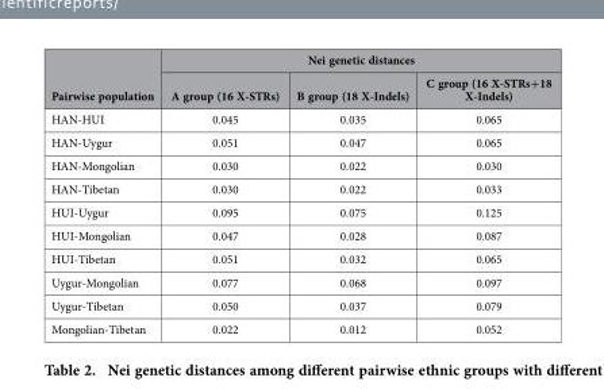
<table><thead><tr><td rowspan="2">Pairwise population</td><td colspan="3">Nei genetic distances</td></tr><tr><td>A group (16 X-STRs)</td><td>B group (18 X-Indels)</td><td>C group (16 X-STRs+18 X-Indels)</td></tr></thead><tbody><tr><td>HAN-HUI</td><td>0.045</td><td>0.035</td><td>0.065</td></tr><tr><td>HAN-Uygur</td><td>0.051</td><td>0.047</td><td>0.065</td></tr><tr><td>HAN-Mongolian</td><td>0.030</td><td>0.022</td><td>0.030</td></tr><tr><td>HAN-Tibetan</td><td>0.030</td><td>0.022</td><td>0.033</td></tr><tr><td>HUI-Uygur</td><td>0.095</td><td>0.075</td><td>0.125</td></tr><tr><td>HUI-Mongolian</td><td>0.047</td><td>0.028</td><td>0.087</td></tr><tr><td>HUI-Tibetan</td><td>0.051</td><td>0.032</td><td>0.065</td></tr><tr><td>Uygur-Mongolian</td><td>0.077</td><td>0.068</td><td>0.097</td></tr><tr><td>Uygur-Tibetan</td><td>0.050</td><td>0.037</td><td>0.079</td></tr><tr><td>Mongolian-Tibetan</td><td>0.022</td><td>0.012</td><td>0.052</td></tr></tbody></table>